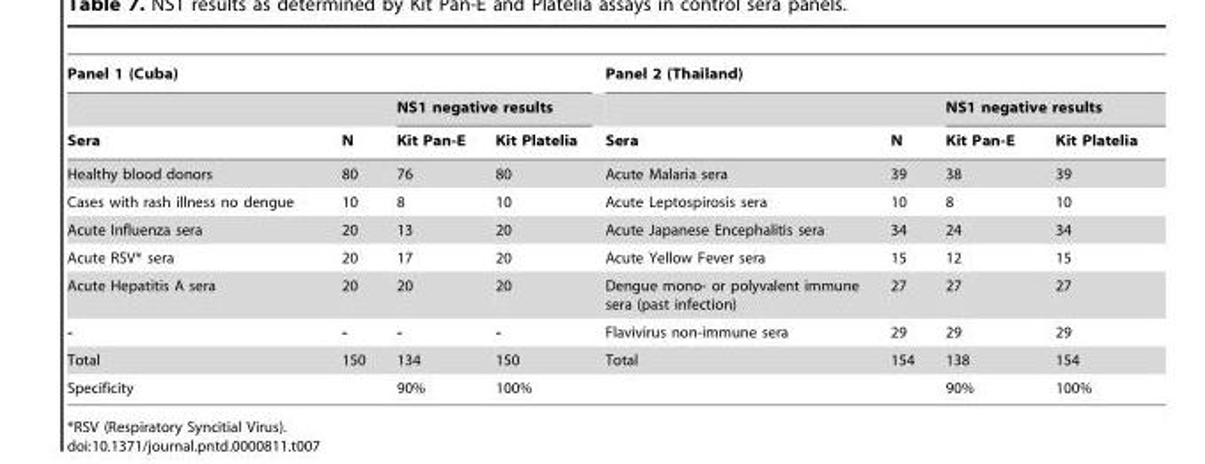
<table><thead><tr><td colspan="4">Panel 1 (Cuba)</td><td colspan="4">Panel 2 (Thailand)</td></tr><tr><td rowspan="2">Sera</td><td rowspan="2">N</td><td colspan="2">NS1 negative results</td><td rowspan="2">Sera</td><td rowspan="2">N</td><td colspan="2">NS1 negative results</td></tr><tr><td>Kit Pan-E</td><td>Kit Platelia</td><td>Kit Pan-E</td><td>Kit Platelia</td></tr></thead><tbody><tr><td>Healthy blood donors</td><td>80</td><td>76</td><td>80</td><td>Acute Malaria sera</td><td>39</td><td>38</td><td>39</td></tr><tr><td>Cases with rash illness no dengue</td><td>10</td><td>8</td><td>10</td><td>Acute Leptospirosis sera</td><td>10</td><td>8</td><td>10</td></tr><tr><td>Acute Influenza sera</td><td>20</td><td>13</td><td>20</td><td>Acute Japanese Encephalitis sera</td><td>34</td><td>24</td><td>34</td></tr><tr><td>Acute RSV* sera</td><td>20</td><td>17</td><td>20</td><td>Acute Yellow Fever sera</td><td>15</td><td>12</td><td>15</td></tr><tr><td>Acute Hepatitis A sera</td><td>20</td><td>20</td><td>20</td><td>Dengue mono- or polyvalent immune sera (past infection)</td><td>27</td><td>27</td><td>27</td></tr><tr><td>-</td><td>-</td><td>-</td><td>-</td><td>Flavivirus non-immune sera</td><td>29</td><td>29</td><td>29</td></tr><tr><td>Total</td><td>150</td><td>134</td><td>150</td><td>Total</td><td>154</td><td>138</td><td>154</td></tr><tr><td>Specificity</td><td></td><td>90%</td><td>100%</td><td></td><td></td><td>90%</td><td>100%</td></tr></tbody></table>